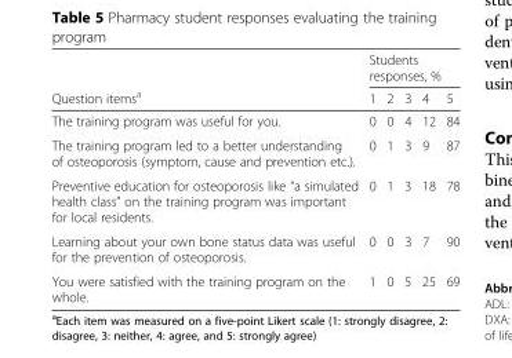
<table><thead><tr><td rowspan="2">Question items<sup>a</sup></td><td colspan="5">Students responses, %</td></tr><tr><td>1</td><td>2</td><td>3</td><td>4</td><td>5</td></tr></thead><tbody><tr><td>The training program was useful for you.</td><td>0</td><td>0</td><td>4</td><td>12</td><td>84</td></tr><tr><td>The training program led to a better understanding of osteoporosis (symptom, cause and prevention etc.).</td><td>0</td><td>1</td><td>3</td><td>9</td><td>87</td></tr><tr><td>Preventive education for osteoporosis like “a simulated health class” on the training program was important for local residents.</td><td>0</td><td>1</td><td>3</td><td>18</td><td>78</td></tr><tr><td>Learning about your own bone status data was useful for the prevention of osteoporosis.</td><td>0</td><td>0</td><td>3</td><td>7</td><td>90</td></tr><tr><td>You were satisfied with the training program on the whole.</td><td>1</td><td>0</td><td>5</td><td>25</td><td>69</td></tr></tbody></table>